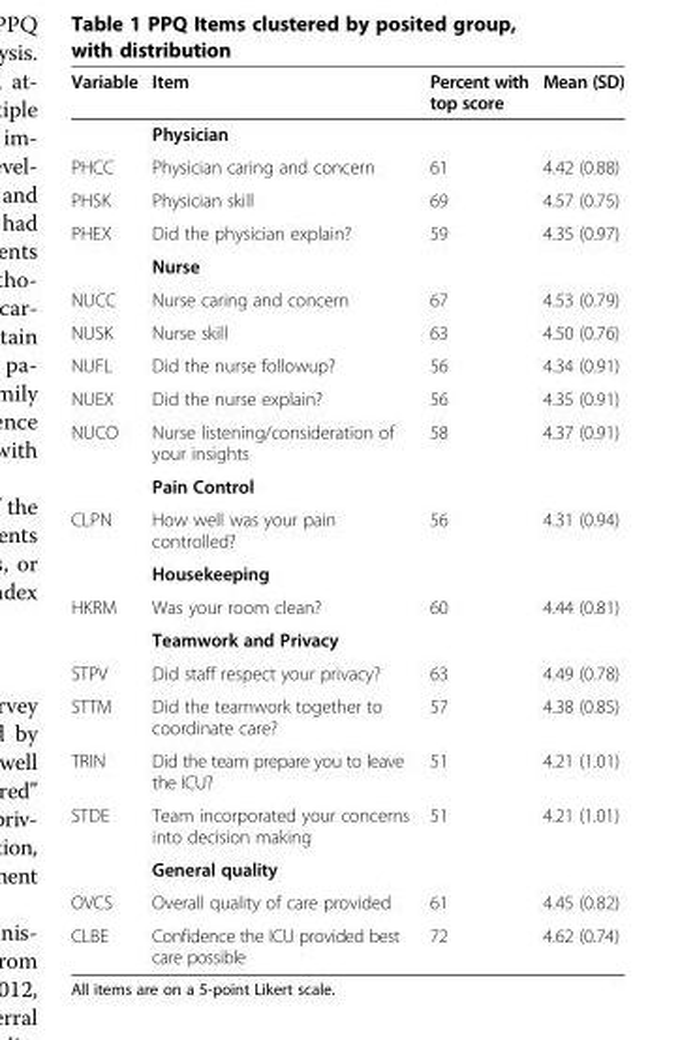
<table><thead><tr><td>Variable</td><td>Item</td><td>Percent with top score</td><td>Mean (SD)</td></tr></thead><tbody><tr><td></td><td>Physician</td><td></td><td></td></tr><tr><td>PHCC</td><td>Physician caring and concern</td><td>61</td><td>4.42 (0.88)</td></tr><tr><td>PHSK</td><td>Physician skill</td><td>69</td><td>4.57 (0.75)</td></tr><tr><td rowspan="2">PHEX</td><td>Did the physician explain?</td><td>59</td><td>4.35 (0.97)</td></tr><tr><td>Nurse</td><td></td><td></td></tr><tr><td>NUCC</td><td>Nurse caring and concern</td><td>67</td><td>4.53 (0.79)</td></tr><tr><td>NUSK</td><td>Nurse skill</td><td>63</td><td>4.50 (0.76)</td></tr><tr><td>NUFL</td><td>Did the nurse followup?</td><td>56</td><td>4.34 (0.91)</td></tr><tr><td>NUEX</td><td>Did the nurse explain?</td><td>56</td><td>4.35 (0.91)</td></tr><tr><td rowspan="2">NUCO</td><td>Nurse listening/consideration of your insights</td><td>58</td><td>4.37 (0.91)</td></tr><tr><td>Pain Control</td><td></td><td></td></tr><tr><td rowspan="2">CLPN</td><td>How well was your pain controlled?</td><td>56</td><td>4.31 (0.94)</td></tr><tr><td>Housekeeping</td><td></td><td></td></tr><tr><td rowspan="2">HKRM</td><td>Was your room clean?</td><td>60</td><td>4.44 (0.81)</td></tr><tr><td>Teamwork and Privacy</td><td></td><td></td></tr><tr><td>STPV</td><td>Did staff respect your privacy?</td><td>63</td><td>4.49 (0.78)</td></tr><tr><td>STTM</td><td>Did the teamwork together to coordinate care?</td><td>57</td><td>4.38 (0.85)</td></tr><tr><td>TRIN</td><td>Did the team prepare you to leave the ICU?</td><td>51</td><td>4.21 (1.01)</td></tr><tr><td rowspan="2">STDE</td><td>Team incorporated your concerns into decision making</td><td>51</td><td>4.21 (1.01)</td></tr><tr><td>General quality</td><td></td><td></td></tr><tr><td>OVCS</td><td>Overall quality of care provided</td><td>61</td><td>4.45 (0.82)</td></tr><tr><td>CLBE</td><td>Confidence the ICU provided best care possible</td><td>72</td><td>4.62 (0.74)</td></tr></tbody></table>